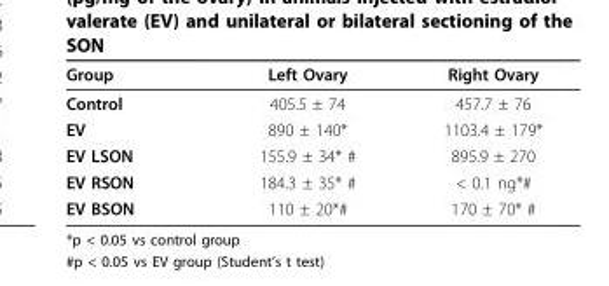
<table><thead><tr><td>Group</td><td>Left Ovary</td><td>Right Ovary</td></tr></thead><tbody><tr><td>Control</td><td>405.5 ± 74</td><td>457.7 ± 76</td></tr><tr><td>EV</td><td>890 ± 140*</td><td>1103.4 ± 179*</td></tr><tr><td>EV LSON</td><td>155.9 ± 34* #</td><td>895.9 ± 270</td></tr><tr><td>EV RSON</td><td>184.3 ± 35* #</td><td>&lt; 0.1 ng*#</td></tr><tr><td>EV BSON</td><td>110 ± 20*#</td><td>170 ± 70* #</td></tr></tbody></table>